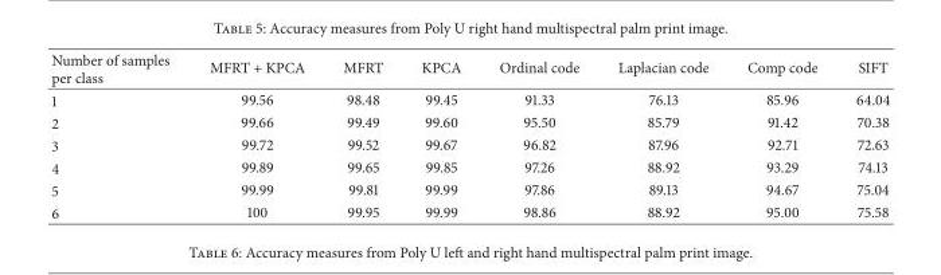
<table><thead><tr><td>Number of samples per class</td><td>MFRT + KPCA</td><td>MFRT</td><td>KPCA</td><td>Ordinal code</td><td>Laplacian code</td><td>Comp code</td><td>SIFT</td></tr></thead><tbody><tr><td>1</td><td>99.56</td><td>98.48</td><td>99.45</td><td>91.33</td><td>76.13</td><td>85.96</td><td>64.04</td></tr><tr><td>2</td><td>99.66</td><td>99.49</td><td>99.60</td><td>95.50</td><td>85.79</td><td>91.42</td><td>70.38</td></tr><tr><td>3</td><td>99.72</td><td>99.52</td><td>99.67</td><td>96.82</td><td>87.96</td><td>92.71</td><td>72.63</td></tr><tr><td>4</td><td>99.89</td><td>99.65</td><td>99.85</td><td>97.26</td><td>88.92</td><td>93.29</td><td>74.13</td></tr><tr><td>5</td><td>99.99</td><td>99.81</td><td>99.99</td><td>97.86</td><td>89.13</td><td>94.67</td><td>75.04</td></tr><tr><td>6</td><td>100</td><td>99.95</td><td>99.99</td><td>98.86</td><td>88.92</td><td>95.00</td><td>75.58</td></tr></tbody></table>